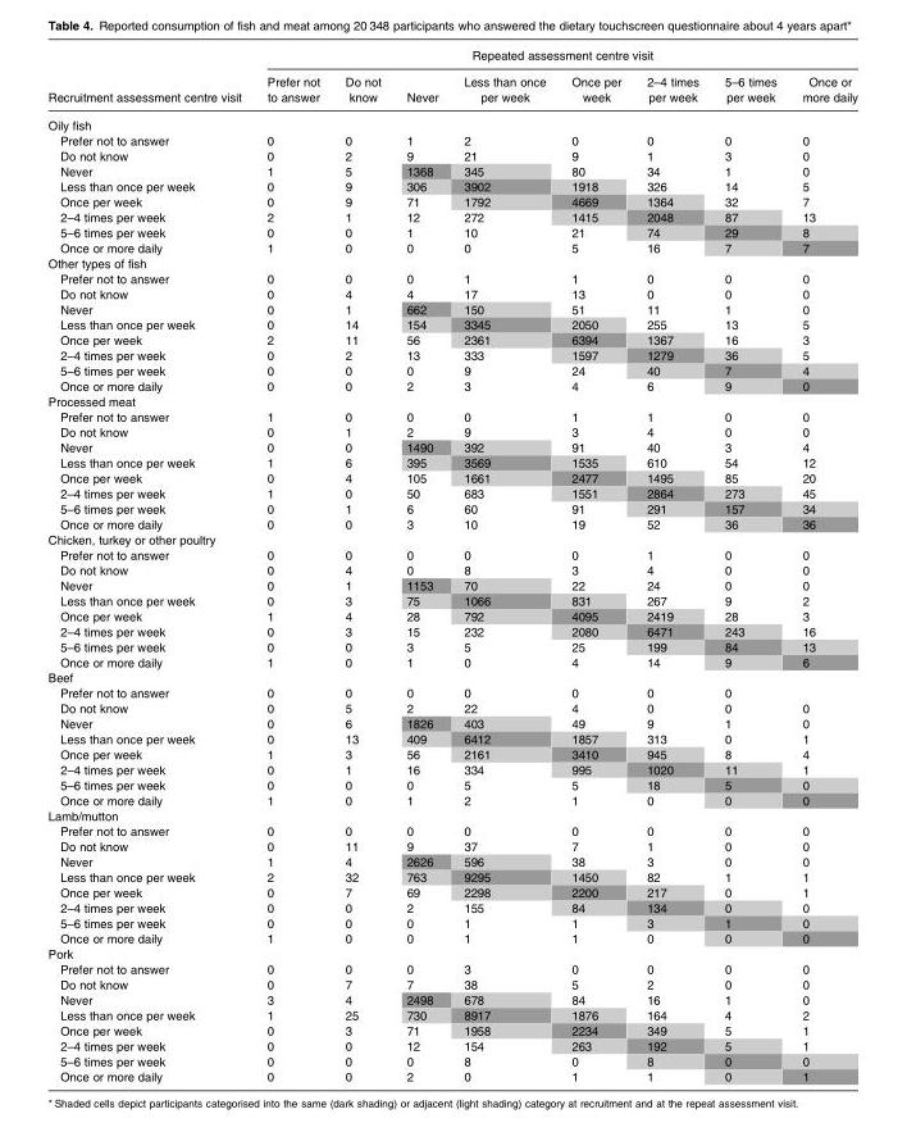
<table><thead><tr><td rowspan="2">Recruitment assessment centre visit</td><td colspan="8">Repeated assessment centre visit</td></tr><tr><td>Prefer not to answer</td><td>Do not know</td><td>Never</td><td>Less than once per week</td><td>Once per week</td><td>2–4 times per week</td><td>5–6 times per week</td><td>Once or more daily</td></tr></thead><tbody><tr><td colspan="9">Oily fish</td></tr><tr><td>Prefer not to answer</td><td>0</td><td>0</td><td>1</td><td>2</td><td>0</td><td>0</td><td>0</td><td>0</td></tr><tr><td>Do not know</td><td>0</td><td>2</td><td>9</td><td>21</td><td>9</td><td>1</td><td>3</td><td>0</td></tr><tr><td>Never</td><td>1</td><td>5</td><td>1368</td><td>345</td><td>80</td><td>34</td><td>1</td><td>0</td></tr><tr><td>Less than once per week</td><td>0</td><td>9</td><td>306</td><td>3902</td><td>1918</td><td>326</td><td>14</td><td>5</td></tr><tr><td>Once per week</td><td>0</td><td>9</td><td>71</td><td>1792</td><td>4669</td><td>1364</td><td>32</td><td>7</td></tr><tr><td>2–4 times per week</td><td>2</td><td>1</td><td>12</td><td>272</td><td>1415</td><td>2048</td><td>87</td><td>13</td></tr><tr><td>5–6 times per week</td><td>0</td><td>0</td><td>1</td><td>10</td><td>21</td><td>74</td><td>29</td><td>8</td></tr><tr><td>Once or more daily</td><td>1</td><td>0</td><td>0</td><td>0</td><td>5</td><td>16</td><td>7</td><td>7</td></tr><tr><td colspan="9">Other types of fish</td></tr><tr><td>Prefer not to answer</td><td>0</td><td>0</td><td>0</td><td>1</td><td>1</td><td>0</td><td>0</td><td>0</td></tr><tr><td>Do not know</td><td>0</td><td>4</td><td>4</td><td>17</td><td>13</td><td>0</td><td>0</td><td>0</td></tr><tr><td>Never</td><td>0</td><td>1</td><td>662</td><td>150</td><td>51</td><td>11</td><td>1</td><td>0</td></tr><tr><td>Less than once per week</td><td>0</td><td>14</td><td>154</td><td>3345</td><td>2050</td><td>255</td><td>13</td><td>5</td></tr><tr><td>Once per week</td><td>2</td><td>11</td><td>56</td><td>2361</td><td>6394</td><td>1367</td><td>16</td><td>3</td></tr><tr><td>2–4 times per week</td><td>0</td><td>2</td><td>13</td><td>333</td><td>1597</td><td>1279</td><td>36</td><td>5</td></tr><tr><td>5–6 times per week</td><td>0</td><td>0</td><td>0</td><td>9</td><td>24</td><td>40</td><td>7</td><td>4</td></tr><tr><td>Once or more daily</td><td>0</td><td>0</td><td>2</td><td>3</td><td>4</td><td>6</td><td>9</td><td>0</td></tr><tr><td colspan="9">Processed meat</td></tr><tr><td>Prefer not to answer</td><td>1</td><td>0</td><td>0</td><td>0</td><td>1</td><td>1</td><td>0</td><td>0</td></tr><tr><td>Do not know</td><td>0</td><td>1</td><td>2</td><td>9</td><td>3</td><td>4</td><td>0</td><td>0</td></tr><tr><td>Never</td><td>0</td><td>0</td><td>1490</td><td>392</td><td>91</td><td>40</td><td>3</td><td>4</td></tr><tr><td>Less than once per week</td><td>1</td><td>6</td><td>395</td><td>3569</td><td>1535</td><td>610</td><td>54</td><td>12</td></tr><tr><td>Once per week</td><td>0</td><td>4</td><td>105</td><td>1661</td><td>2477</td><td>1495</td><td>85</td><td>20</td></tr><tr><td>2–4 times per week</td><td>1</td><td>0</td><td>50</td><td>683</td><td>1551</td><td>2864</td><td>273</td><td>45</td></tr><tr><td>5–6 times per week</td><td>0</td><td>1</td><td>6</td><td>60</td><td>91</td><td>291</td><td>157</td><td>34</td></tr><tr><td>Once or more daily</td><td>0</td><td>0</td><td>3</td><td>10</td><td>19</td><td>52</td><td>36</td><td>36</td></tr><tr><td colspan="9">Chicken, turkey or other poultry</td></tr><tr><td>Prefer not to answer</td><td>0</td><td>0</td><td>0</td><td>0</td><td>0</td><td>1</td><td>0</td><td>0</td></tr><tr><td>Do not know</td><td>0</td><td>4</td><td>0</td><td>8</td><td>3</td><td>4</td><td>0</td><td>0</td></tr><tr><td>Never</td><td>0</td><td>1</td><td>1153</td><td>70</td><td>22</td><td>24</td><td>0</td><td>0</td></tr><tr><td>Less than once per week</td><td>0</td><td>3</td><td>75</td><td>1066</td><td>831</td><td>267</td><td>9</td><td>2</td></tr><tr><td>Once per week</td><td>1</td><td>4</td><td>28</td><td>792</td><td>4095</td><td>2419</td><td>28</td><td>3</td></tr><tr><td>2–4 times per week</td><td>0</td><td>3</td><td>15</td><td>232</td><td>2080</td><td>6471</td><td>243</td><td>16</td></tr><tr><td>5–6 times per week</td><td>0</td><td>0</td><td>3</td><td>5</td><td>25</td><td>199</td><td>84</td><td>13</td></tr><tr><td>Once or more daily</td><td>1</td><td>0</td><td>1</td><td>0</td><td>4</td><td>14</td><td>9</td><td>6</td></tr><tr><td colspan="9">Beef</td></tr><tr><td>Prefer not to answer</td><td>0</td><td>0</td><td>0</td><td>0</td><td>0</td><td>0</td><td>0</td><td></td></tr><tr><td>Do not know</td><td>0</td><td>5</td><td>2</td><td>22</td><td>4</td><td>0</td><td>0</td><td>0</td></tr><tr><td>Never</td><td>0</td><td>6</td><td>1826</td><td>403</td><td>49</td><td>9</td><td>1</td><td>0</td></tr><tr><td>Less than once per week</td><td>0</td><td>13</td><td>409</td><td>6412</td><td>1857</td><td>313</td><td>0</td><td>1</td></tr><tr><td>Once per week</td><td>1</td><td>3</td><td>56</td><td>2161</td><td>3410</td><td>945</td><td>8</td><td>4</td></tr><tr><td>2–4 times per week</td><td>0</td><td>1</td><td>16</td><td>334</td><td>995</td><td>1020</td><td>11</td><td>1</td></tr><tr><td>5–6 times per week</td><td>0</td><td>0</td><td>0</td><td>5</td><td>5</td><td>18</td><td>5</td><td>0</td></tr><tr><td>Once or more daily</td><td>1</td><td>0</td><td>1</td><td>2</td><td>1</td><td>0</td><td>0</td><td>0</td></tr><tr><td colspan="9">Lamb/mutton</td></tr><tr><td>Prefer not to answer</td><td>0</td><td>0</td><td>0</td><td>0</td><td>0</td><td>0</td><td>0</td><td>0</td></tr><tr><td>Do not know</td><td>0</td><td>11</td><td>9</td><td>37</td><td>7</td><td>1</td><td>0</td><td>0</td></tr><tr><td>Never</td><td>1</td><td>4</td><td>2626</td><td>596</td><td>38</td><td>3</td><td>0</td><td>0</td></tr><tr><td>Less than once per week</td><td>2</td><td>32</td><td>763</td><td>9295</td><td>1450</td><td>82</td><td>1</td><td>1</td></tr><tr><td>Once per week</td><td>0</td><td>7</td><td>69</td><td>2298</td><td>2200</td><td>217</td><td>0</td><td>1</td></tr><tr><td>2–4 times per week</td><td>0</td><td>0</td><td>2</td><td>155</td><td>84</td><td>134</td><td>0</td><td>0</td></tr><tr><td>5–6 times per week</td><td>0</td><td>0</td><td>0</td><td>1</td><td>1</td><td>3</td><td>1</td><td>0</td></tr><tr><td>Once or more daily</td><td>1</td><td>0</td><td>0</td><td>1</td><td>1</td><td>0</td><td>0</td><td>0</td></tr><tr><td colspan="9">Pork</td></tr><tr><td>Prefer not to answer</td><td>0</td><td>0</td><td>0</td><td>3</td><td>0</td><td>0</td><td>0</td><td>0</td></tr><tr><td>Do not know</td><td>0</td><td>7</td><td>7</td><td>38</td><td>5</td><td>2</td><td>0</td><td>0</td></tr><tr><td>Never</td><td>3</td><td>4</td><td>2498</td><td>678</td><td>84</td><td>16</td><td>1</td><td>0</td></tr><tr><td>Less than once per week</td><td>1</td><td>25</td><td>730</td><td>8917</td><td>1876</td><td>164</td><td>4</td><td>2</td></tr><tr><td>Once per week</td><td>0</td><td>3</td><td>71</td><td>1958</td><td>2234</td><td>349</td><td>5</td><td>1</td></tr><tr><td>2–4 times per week</td><td>0</td><td>0</td><td>12</td><td>154</td><td>263</td><td>192</td><td>5</td><td>1</td></tr><tr><td>5–6 times per week</td><td>0</td><td>0</td><td>0</td><td>8</td><td>0</td><td>8</td><td>0</td><td>0</td></tr><tr><td>Once or more daily</td><td>0</td><td>0</td><td>2</td><td>0</td><td>1</td><td>1</td><td>0</td><td>1</td></tr></tbody></table>